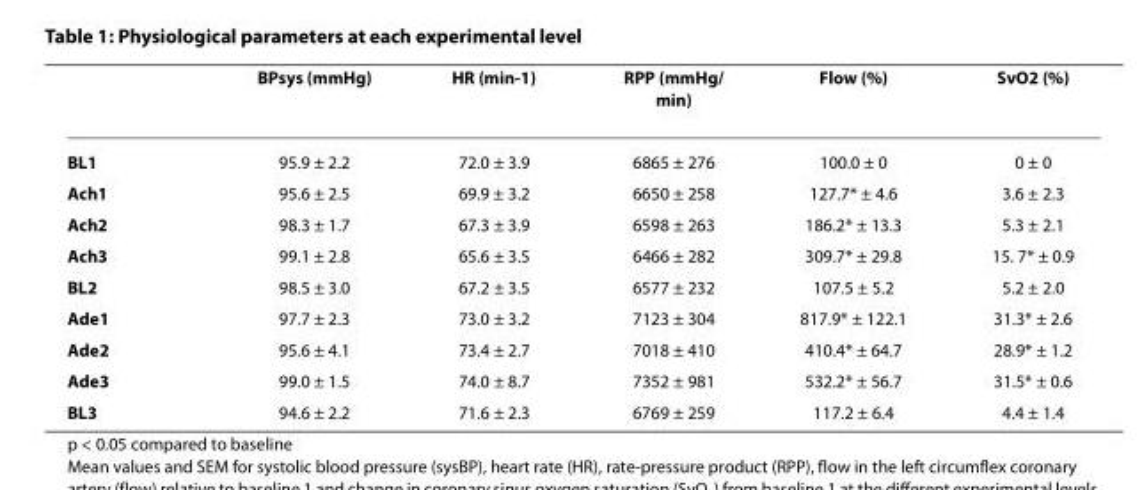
<table><thead><tr><td></td><td>BPsys (mmHg)</td><td>HR (min-1)</td><td>RPP (mmHg/ min)</td><td>Flow (%)</td><td>SvO2 (%)</td></tr></thead><tbody><tr><td>BL1</td><td>95.9 ± 2.2</td><td>72.0 ± 3.9</td><td>6865 ± 276</td><td>100.0 ± 0</td><td>0 ± 0</td></tr><tr><td>Ach1</td><td>95.6 ± 2.5</td><td>69.9 ± 3.2</td><td>6650 ± 258</td><td>127.7* ± 4.6</td><td>3.6 ± 2.3</td></tr><tr><td>Ach2</td><td>98.3 ± 1.7</td><td>67.3 ± 3.9</td><td>6598 ± 263</td><td>186.2* ± 13.3</td><td>5.3 ± 2.1</td></tr><tr><td>Ach3</td><td>99.1 ± 2.8</td><td>65.6 ± 3.5</td><td>6466 ± 282</td><td>309.7* ± 29.8</td><td>15. 7* ± 0.9</td></tr><tr><td>BL2</td><td>98.5 ± 3.0</td><td>67.2 ± 3.5</td><td>6577 ± 232</td><td>107.5 ± 5.2</td><td>5.2 ± 2.0</td></tr><tr><td>Ade1</td><td>97.7 ± 2.3</td><td>73.0 ± 3.2</td><td>7123 ± 304</td><td>817.9* ± 122.1</td><td>31.3* ± 2.6</td></tr><tr><td>Ade2</td><td>95.6 ± 4.1</td><td>73.4 ± 2.7</td><td>7018 ± 410</td><td>410.4* ± 64.7</td><td>28.9* ± 1.2</td></tr><tr><td>Ade3</td><td>99.0 ± 1.5</td><td>74.0 ± 8.7</td><td>7352 ± 981</td><td>532.2* ± 56.7</td><td>31.5* ± 0.6</td></tr><tr><td>BL3</td><td>94.6 ± 2.2</td><td>71.6 ± 2.3</td><td>6769 ± 259</td><td>117.2 ± 6.4</td><td>4.4 ± 1.4</td></tr></tbody></table>